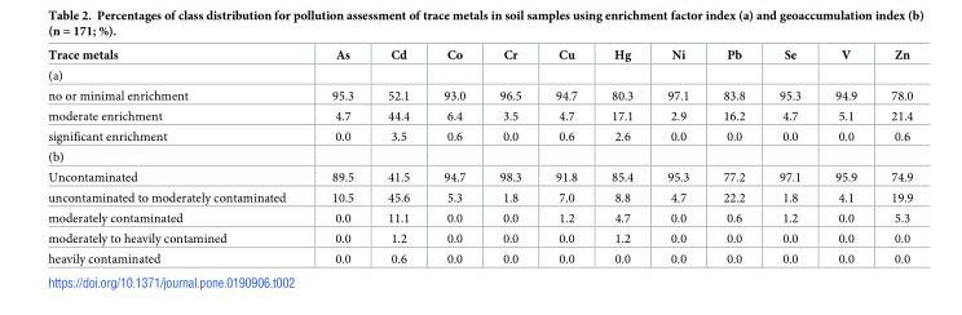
<table><thead><tr><td>Trace metals</td><td>As</td><td>Cd</td><td>Co</td><td>Cr</td><td>Cu</td><td>Hg</td><td>Ni</td><td>Pb</td><td>Se</td><td>V</td><td>Zn</td></tr></thead><tbody><tr><td colspan="12">(a)</td></tr><tr><td>no or minimal enrichment</td><td>95.3</td><td>52.1</td><td>93.0</td><td>96.5</td><td>94.7</td><td>80.3</td><td>97.1</td><td>83.8</td><td>95.3</td><td>94.9</td><td>78.0</td></tr><tr><td>moderate enrichment</td><td>4.7</td><td>44.4</td><td>6.4</td><td>3.5</td><td>4.7</td><td>17.1</td><td>2.9</td><td>16.2</td><td>4.7</td><td>5.1</td><td>21.4</td></tr><tr><td>significant enrichment</td><td>0.0</td><td>3.5</td><td>0.6</td><td>0.0</td><td>0.6</td><td>2.6</td><td>0.0</td><td>0.0</td><td>0.0</td><td>0.0</td><td>0.6</td></tr><tr><td colspan="12">(b)</td></tr><tr><td>Uncontaminated</td><td>89.5</td><td>41.5</td><td>94.7</td><td>98.3</td><td>91.8</td><td>85.4</td><td>95.3</td><td>77.2</td><td>97.1</td><td>95.9</td><td>74.9</td></tr><tr><td>uncontaminated to moderately contaminated</td><td>10.5</td><td>45.6</td><td>5.3</td><td>1.8</td><td>7.0</td><td>8.8</td><td>4.7</td><td>22.2</td><td>1.8</td><td>4.1</td><td>19.9</td></tr><tr><td>moderately contaminated</td><td>0.0</td><td>11.1</td><td>0.0</td><td>0.0</td><td>1.2</td><td>4.7</td><td>0.0</td><td>0.6</td><td>1.2</td><td>0.0</td><td>5.3</td></tr><tr><td>moderately to heavily contamined</td><td>0.0</td><td>1.2</td><td>0.0</td><td>0.0</td><td>0.0</td><td>1.2</td><td>0.0</td><td>0.0</td><td>0.0</td><td>0.0</td><td>0.0</td></tr><tr><td>heavily contaminated</td><td>0.0</td><td>0.6</td><td>0.0</td><td>0.0</td><td>0.0</td><td>0.0</td><td>0.0</td><td>0.0</td><td>0.0</td><td>0.0</td><td>0.0</td></tr></tbody></table>